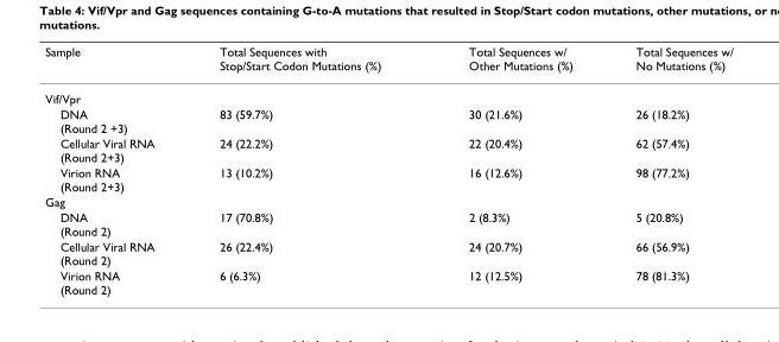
<table><thead><tr><td>Sample</td><td>Total Sequences with Stop/Start Codon Mutations (%)</td><td>Total Sequences w/ Other Mutations (%)</td><td>Total Sequences w/ No Mutations (%)</td></tr></thead><tbody><tr><td colspan="4">Vif/Vpr</td></tr><tr><td>DNA (Round 2 +3)</td><td>83 (59.7%)</td><td>30 (21.6%)</td><td>26 (18.2%)</td></tr><tr><td>Cellular Viral RNA (Round 2+3)</td><td>24 (22.2%)</td><td>22 (20.4%)</td><td>62 (57.4%)</td></tr><tr><td>Virion RNA (Round 2+3)</td><td>13 (10.2%)</td><td>16 (12.6%)</td><td>98 (77.2%)</td></tr><tr><td colspan="4">Gag</td></tr><tr><td>DNA (Round 2)</td><td>17 (70.8%)</td><td>2 (8.3%)</td><td>5 (20.8%)</td></tr><tr><td>Cellular Viral RNA (Round 2)</td><td>26 (22.4%)</td><td>24 (20.7%)</td><td>66 (56.9%)</td></tr><tr><td>Virion RNA (Round 2)</td><td>6 (6.3%)</td><td>12 (12.5%)</td><td>78 (81.3%)</td></tr></tbody></table>